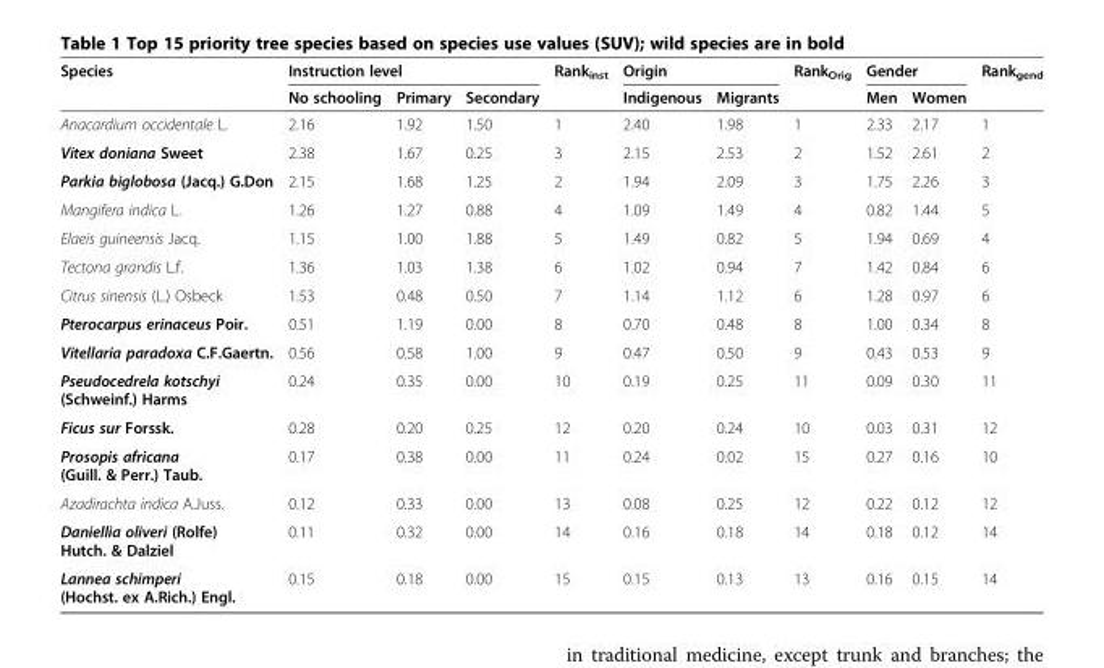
<table><thead><tr><td rowspan="2">Species</td><td colspan="3">Instruction level</td><td rowspan="2">Rank<sub>inst</sub></td><td colspan="2">Origin</td><td rowspan="2">Rank<sub>Orig</sub></td><td colspan="2">Gender</td><td rowspan="2">Rank<sub>gend</sub></td></tr><tr><td>No schooling</td><td>Primary</td><td>Secondary</td><td>Indigenous</td><td>Migrants</td><td>Men</td><td>Women</td></tr></thead><tbody><tr><td>Anacardium occidentale L.</td><td>2.16</td><td>1.92</td><td>1.50</td><td>1</td><td>2.40</td><td>1.98</td><td>1</td><td>2.33</td><td>2.17</td><td>1</td></tr><tr><td>Vitex doniana Sweet</td><td>2.38</td><td>1.67</td><td>0.25</td><td>3</td><td>2.15</td><td>2.53</td><td>2</td><td>1.52</td><td>2.61</td><td>2</td></tr><tr><td>Parkia biglobosa (Jacq.) G.Don</td><td>2.15</td><td>1.68</td><td>1.25</td><td>2</td><td>1.94</td><td>2.09</td><td>3</td><td>1.75</td><td>2.26</td><td>3</td></tr><tr><td>Mangifera indica L.</td><td>1.26</td><td>1.27</td><td>0.88</td><td>4</td><td>1.09</td><td>1.49</td><td>4</td><td>0.82</td><td>1.44</td><td>5</td></tr><tr><td>Elaeis guineensis Jacq.</td><td>1.15</td><td>1.00</td><td>1.88</td><td>5</td><td>1.49</td><td>0.82</td><td>5</td><td>1.94</td><td>0.69</td><td>4</td></tr><tr><td>Tectona grandis L.f.</td><td>1.36</td><td>1.03</td><td>1.38</td><td>6</td><td>1.02</td><td>0.94</td><td>7</td><td>1.42</td><td>0.84</td><td>6</td></tr><tr><td>Citrus sinensis (L.) Osbeck</td><td>1.53</td><td>0.48</td><td>0.50</td><td>7</td><td>1.14</td><td>1.12</td><td>6</td><td>1.28</td><td>0.97</td><td>6</td></tr><tr><td>Pterocarpus erinaceus Poir.</td><td>0.51</td><td>1.19</td><td>0.00</td><td>8</td><td>0.70</td><td>0.48</td><td>8</td><td>1.00</td><td>0.34</td><td>8</td></tr><tr><td>Vitellaria paradoxa C.F.Gaertn.</td><td>0.56</td><td>0.58</td><td>1.00</td><td>9</td><td>0.47</td><td>0.50</td><td>9</td><td>0.43</td><td>0.53</td><td>9</td></tr><tr><td>Pseudocedrela kotschyi (Schweinf.) Harms</td><td>0.24</td><td>0.35</td><td>0.00</td><td>10</td><td>0.19</td><td>0.25</td><td>11</td><td>0.09</td><td>0.30</td><td>11</td></tr><tr><td>Ficus sur Forssk.</td><td>0.28</td><td>0.20</td><td>0.25</td><td>12</td><td>0.20</td><td>0.24</td><td>10</td><td>0.03</td><td>0.31</td><td>12</td></tr><tr><td>Prosopis africana (Guill. &amp; Perr.) Taub.</td><td>0.17</td><td>0.38</td><td>0.00</td><td>11</td><td>0.24</td><td>0.02</td><td>15</td><td>0.27</td><td>0.16</td><td>10</td></tr><tr><td>Azadirachta indica A.Juss.</td><td>0.12</td><td>0.33</td><td>0.00</td><td>13</td><td>0.08</td><td>0.25</td><td>12</td><td>0.22</td><td>0.12</td><td>12</td></tr><tr><td>Daniellia oliveri (Rolfe) Hutch. &amp; Dalziel</td><td>0.11</td><td>0.32</td><td>0.00</td><td>14</td><td>0.16</td><td>0.18</td><td>14</td><td>0.18</td><td>0.12</td><td>14</td></tr><tr><td>Lannea schimperi (Hochst. ex A.Rich.) Engl.</td><td>0.15</td><td>0.18</td><td>0.00</td><td>15</td><td>0.15</td><td>0.13</td><td>13</td><td>0.16</td><td>0.15</td><td>14</td></tr></tbody></table>